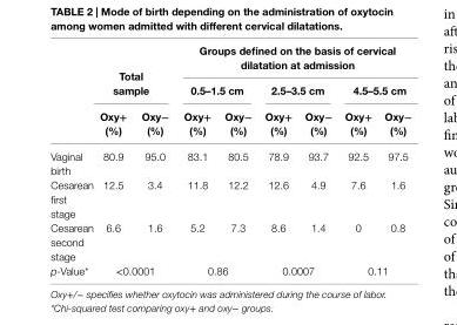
<table><thead><tr><td rowspan="3"></td><td rowspan="2" colspan="2">Total sample</td><td colspan="6">groups defined on the basis of cervical dilatation at admission</td></tr><tr><td colspan="2">0.5–1.5 cm</td><td colspan="2">2.5–3.5 cm</td><td colspan="2">4.5–5.5 cm</td></tr><tr><td>Oxy+ (%)</td><td>Oxy− (%)</td><td>Oxy+ (%)</td><td>Oxy− (%)</td><td>Oxy+ (%)</td><td>Oxy− (%)</td><td>Oxy+ (%)</td><td>Oxy− (%)</td></tr></thead><tbody><tr><td>Vaginal birth</td><td>80.9</td><td>95.0</td><td>83.1</td><td>80.5</td><td>78.9</td><td>93.7</td><td>92.5</td><td>97.5</td></tr><tr><td>Cesarean first stage</td><td>12.5</td><td>3.4</td><td>11.8</td><td>12.2</td><td>12.6</td><td>4.9</td><td>7.6</td><td>1.6</td></tr><tr><td>Cesarean second stage</td><td>6.6</td><td>1.6</td><td>5.2</td><td>7.3</td><td>8.6</td><td>1.4</td><td>0</td><td>0.8</td></tr><tr><td>p-Value*</td><td colspan="2">&lt;0.0001</td><td colspan="2">0.86</td><td colspan="2">0.0007</td><td colspan="2">0.11</td></tr></tbody></table>